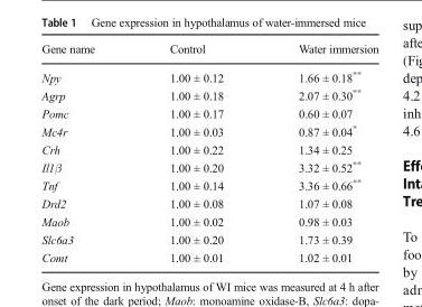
<table><thead><tr><td>Gene name</td><td>Control</td><td>Water immersion</td></tr></thead><tbody><tr><td>Npy</td><td>1.00 ± 0.12</td><td>1.66 ± 0.18**</td></tr><tr><td>Agrp</td><td>1.00 ± 0.18</td><td>2.07 ± 0.30**</td></tr><tr><td>Pomc</td><td>1.00 ± 0.17</td><td>0.60 ± 0.07</td></tr><tr><td>Mc4r</td><td>1.00 ± 0.03</td><td>0.87 ± 0.04*</td></tr><tr><td>Crh</td><td>1.00 ± 0.22</td><td>1.34 ± 0.25</td></tr><tr><td>Il1β</td><td>1.00 ± 0.20</td><td>3.32 ± 0.52**</td></tr><tr><td>Tnf</td><td>1.00 ± 0.14</td><td>3.36 ± 0.66**</td></tr><tr><td>Drd2</td><td>1.00 ± 0.08</td><td>1.07 ± 0.08</td></tr><tr><td>Maob</td><td>1.00 ± 0.02</td><td>0.98 ± 0.03</td></tr><tr><td>Slc6a3</td><td>1.00 ± 0.20</td><td>1.73 ± 0.39</td></tr><tr><td>Comt</td><td>1.00 ± 0.01</td><td>1.02 ± 0.01</td></tr></tbody></table>